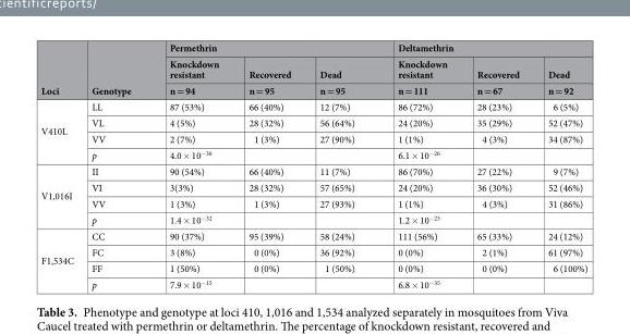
<table><thead><tr><td rowspan="3">Loci</td><td rowspan="3">Genotype</td><td colspan="3">Permethrin</td><td colspan="3">Deltamethrin</td></tr><tr><td rowspan="2">Knockdown resistant n = 94</td><td rowspan="2">Recovered n = 95</td><td rowspan="2">Dead n = 95</td><td rowspan="2">Knockdown resistant n = 111</td><td rowspan="2">Recovered n = 67</td><td rowspan="2">Dead n = 92</td></tr><tr></tr></thead><tbody><tr><td rowspan="4">V410L</td><td>LL</td><td>87 (53%)</td><td>66 (40%)</td><td>12 (7%)</td><td>86 (72%)</td><td>28 (23%)</td><td>6 (5%)</td></tr><tr><td>VL</td><td>4 (5%)</td><td>28 (32%)</td><td>56 (64%)</td><td>24 (20%)</td><td>35 (29%)</td><td>52 (47%)</td></tr><tr><td>VV</td><td>2 (7%)</td><td>1 (3%)</td><td>27 (90%)</td><td>1 (1%)</td><td>4 (3%)</td><td>34 (87%)</td></tr><tr><td>p</td><td>4.0 × 10<sup>−30</sup></td><td></td><td></td><td>6.1 × 10<sup>−26</sup></td><td></td><td></td></tr><tr><td rowspan="4">V1,016I</td><td>II</td><td>90 (54%)</td><td>66 (40%)</td><td>11 (7%)</td><td>86 (70%)</td><td>27 (22%)</td><td>9 (7%)</td></tr><tr><td>VI</td><td>3(3%)</td><td>28 (32%)</td><td>57 (65%)</td><td>24 (20%)</td><td>36 (30%)</td><td>52 (46%)</td></tr><tr><td>VV</td><td>1 (3%)</td><td>1 (3%)</td><td>27 (93%)</td><td>1 (1%)</td><td>4 (3%)</td><td>31 (86%)</td></tr><tr><td>p</td><td>1.4 × 10<sup>−32</sup></td><td></td><td></td><td>1.2 × 10<sup>−23</sup></td><td></td><td></td></tr><tr><td rowspan="4">F1,534C</td><td>CC</td><td>90 (37%)</td><td>95 (39%)</td><td>58 (24%)</td><td>111 (56%)</td><td>65 (33%)</td><td>24 (12%)</td></tr><tr><td>FC</td><td>3 (8%)</td><td>0 (0%)</td><td>36 (92%)</td><td>0 (0%)</td><td>2 (1%)</td><td>61 (97%)</td></tr><tr><td>FF</td><td>1 (50%)</td><td>0 (0%)</td><td>1 (50%)</td><td>0 (0%)</td><td>0 (0%)</td><td>6 (100%)</td></tr><tr><td>p</td><td>7.9 × 10<sup>−15</sup></td><td></td><td></td><td>6.8 × 10<sup>−35</sup></td><td></td><td></td></tr></tbody></table>